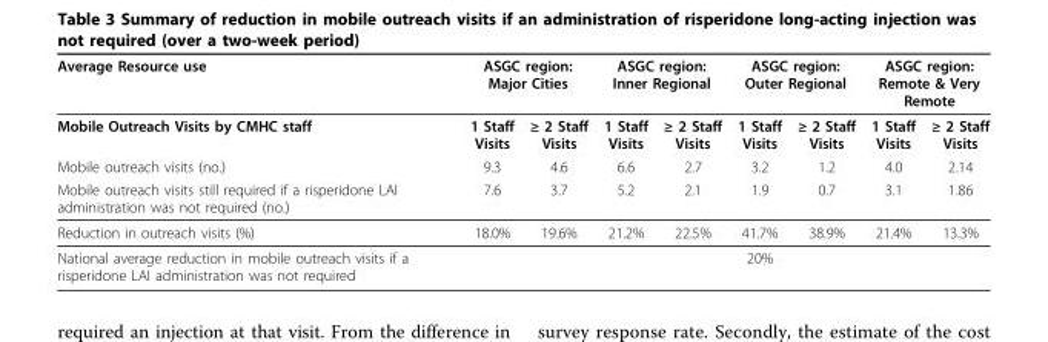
<table><thead><tr><td rowspan="2">Average Resource use Mobile Outreach Visits by CMHC staff</td><td colspan="2">ASGC region: Major Cities</td><td colspan="2">ASGC region: Inner Regional</td><td colspan="2">ASGC region: Outer Regional</td><td colspan="2">ASGC region: Remote &amp; Very Remote</td></tr><tr><td>1 Staff Visits</td><td>≥ 2 Staff Visits</td><td>1 Staff Visits</td><td>≥ 2 Staff Visits</td><td>1 Staff Visits</td><td>≥ 2 Staff Visits</td><td>1 Staff Visits</td><td>≥ 2 Staff Visits</td></tr></thead><tbody><tr><td>Mobile outreach visits (no.)</td><td>9.3</td><td>4.6</td><td>6.6</td><td>2.7</td><td>3.2</td><td>1.2</td><td>4.0</td><td>2.14</td></tr><tr><td>Mobile outreach visits still required if a risperidone LAI administration was not required (no.)</td><td>7.6</td><td>3.7</td><td>5.2</td><td>2.1</td><td>1.9</td><td>0.7</td><td>3.1</td><td>1.86</td></tr><tr><td>Reduction in outreach visits (%)</td><td>18.0%</td><td>19.6%</td><td>21.2%</td><td>22.5%</td><td>41.7%</td><td>38.9%</td><td>21.4%</td><td>13.3%</td></tr><tr><td>National average reduction in mobile outreach visits if a risperidone LAI administration was not required</td><td></td><td></td><td></td><td></td><td>20%</td><td></td><td></td><td></td></tr></tbody></table>